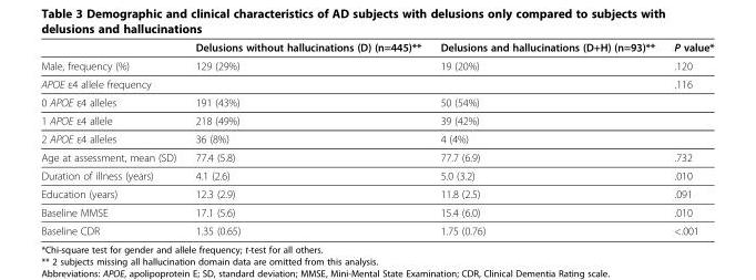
<table><thead><tr><td></td><td>Delusions without hallucinations (D) (n=445)**</td><td>Delusions and hallucinations (D+H) (n=93)**</td><td>P value*</td></tr></thead><tbody><tr><td>Male, frequency (%)</td><td>129 (29%)</td><td>19 (20%)</td><td>.120</td></tr><tr><td>APOE ε4 allele frequency</td><td></td><td></td><td>.116</td></tr><tr><td>0 APOE ε4 alleles</td><td>191 (43%)</td><td>50 (54%)</td><td></td></tr><tr><td>1 APOE ε4 allele</td><td>218 (49%)</td><td>39 (42%)</td><td></td></tr><tr><td>2 APOE ε4 alleles</td><td>36 (8%)</td><td>4 (4%)</td><td></td></tr><tr><td>Age at assessment, mean (SD)</td><td>77.4 (5.8)</td><td>77.7 (6.9)</td><td>.732</td></tr><tr><td>Duration of illness (years)</td><td>4.1 (2.6)</td><td>5.0 (3.2)</td><td>.010</td></tr><tr><td>Education (years)</td><td>12.3 (2.9)</td><td>11.8 (2.5)</td><td>.091</td></tr><tr><td>Baseline MMSE</td><td>17.1 (5.6)</td><td>15.4 (6.0)</td><td>.010</td></tr><tr><td>Baseline CDR</td><td>1.35 (0.65)</td><td>1.75 (0.76)</td><td>&lt;.001</td></tr></tbody></table>